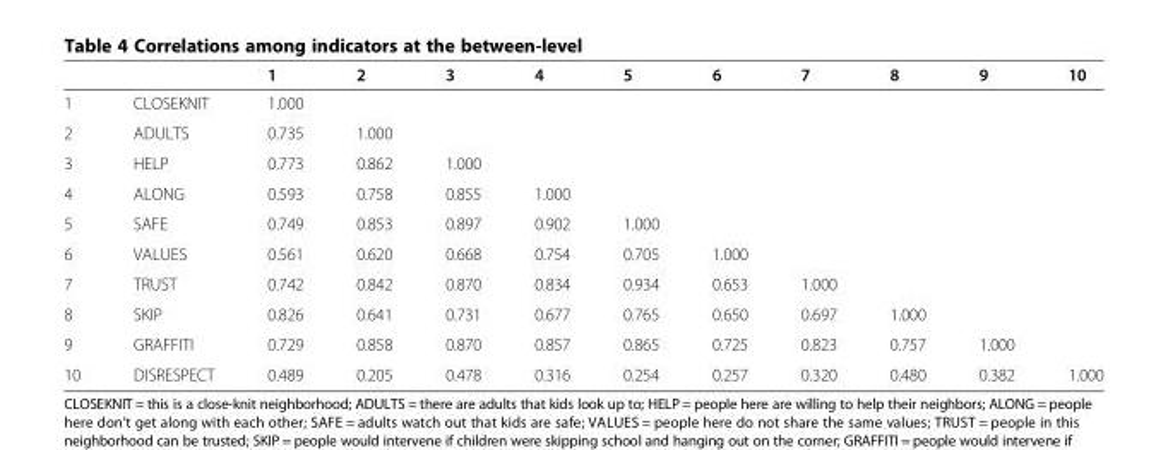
<table><thead><tr><td></td><td></td><td>1</td><td>2</td><td>3</td><td>4</td><td>5</td><td>6</td><td>7</td><td>8</td><td>9</td><td>10</td></tr></thead><tbody><tr><td>1</td><td>CLOSEKNIT</td><td>1.000</td><td></td><td></td><td></td><td></td><td></td><td></td><td></td><td></td><td></td></tr><tr><td>2</td><td>ADULTS</td><td>0.735</td><td>1.000</td><td></td><td></td><td></td><td></td><td></td><td></td><td></td><td></td></tr><tr><td>3</td><td>HELP</td><td>0.773</td><td>0.862</td><td>1.000</td><td></td><td></td><td></td><td></td><td></td><td></td><td></td></tr><tr><td>4</td><td>ALONG</td><td>0.593</td><td>0.758</td><td>0.855</td><td>1.000</td><td></td><td></td><td></td><td></td><td></td><td></td></tr><tr><td>5</td><td>SAFE</td><td>0.749</td><td>0.853</td><td>0.897</td><td>0.902</td><td>1.000</td><td></td><td></td><td></td><td></td><td></td></tr><tr><td>6</td><td>VALUES</td><td>0.561</td><td>0.620</td><td>0.668</td><td>0.754</td><td>0.705</td><td>1.000</td><td></td><td></td><td></td><td></td></tr><tr><td>7</td><td>TRUST</td><td>0.742</td><td>0.842</td><td>0.870</td><td>0.834</td><td>0.934</td><td>0.653</td><td>1.000</td><td></td><td></td><td></td></tr><tr><td>8</td><td>SKIP</td><td>0.826</td><td>0.641</td><td>0.731</td><td>0.677</td><td>0.765</td><td>0.650</td><td>0.697</td><td>1.000</td><td></td><td></td></tr><tr><td>9</td><td>GRAFFITI</td><td>0.729</td><td>0.858</td><td>0.870</td><td>0.857</td><td>0.865</td><td>0.725</td><td>0.823</td><td>0.757</td><td>1.000</td><td></td></tr><tr><td>10</td><td>DISRESPECT</td><td>0.489</td><td>0.205</td><td>0.478</td><td>0.316</td><td>0.254</td><td>0.257</td><td>0.320</td><td>0.480</td><td>0.382</td><td>1.000</td></tr></tbody></table>